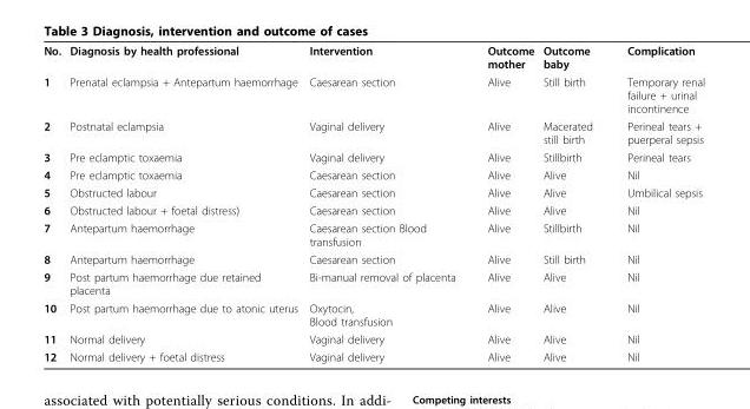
<table><tbody><tr><td>No.</td><td>Diagnosis by health professional</td><td>Intervention</td><td>Outcome mother</td><td>Outcome baby</td><td>Complication</td></tr><tr><td>1</td><td>Prenatal eclampsia + Antepartum haemorrhage</td><td>Caesarean section</td><td>Alive</td><td>Still birth</td><td>Temporary renal failure + urinal incontinence</td></tr><tr><td>2</td><td>Postnatal eclampsia</td><td>Vaginal delivery</td><td>Alive</td><td>Macerated still birth</td><td>Perineal tears + puerperal sepsis</td></tr><tr><td>3</td><td>Pre eclamptic toxaemia</td><td>Vaginal delivery</td><td>Alive</td><td>Stillbirth</td><td>Perineal tears</td></tr><tr><td>4</td><td>Pre eclamptic toxaemia</td><td>Caesarean section</td><td>Alive</td><td>Alive</td><td>Nil</td></tr><tr><td>5</td><td>Obstructed labour</td><td>Caesarean section</td><td>Alive</td><td>Alive</td><td>Umbilical sepsis</td></tr><tr><td>6</td><td>Obstructed labour + foetal distress)</td><td>Caesarean section</td><td>Alive</td><td>Alive</td><td>Nil</td></tr><tr><td>7</td><td>Antepartum haemorrhage</td><td>Caesarean section Blood transfusion</td><td>Alive</td><td>Stillbirth</td><td>Nil</td></tr><tr><td>8</td><td>Antepartum haemorrhage</td><td>Caesarean section</td><td>Alive</td><td>Still birth</td><td>Nil</td></tr><tr><td>9</td><td>Post partum haemorrhage due retained placenta</td><td>Bi-manual removal of placenta</td><td>Alive</td><td>Alive</td><td>Nil</td></tr><tr><td>10</td><td>Post partum haemorrhage due to atonic uterus</td><td>Oxytocin, Blood transfusion</td><td>Alive</td><td>Alive</td><td>Nil</td></tr><tr><td>11</td><td>Normal delivery</td><td>Vaginal delivery</td><td>Alive</td><td>Alive</td><td>Nil</td></tr><tr><td>12</td><td>Normal delivery + foetal distress</td><td>Vaginal delivery</td><td>Alive</td><td>Alive</td><td>Nil</td></tr></tbody></table>